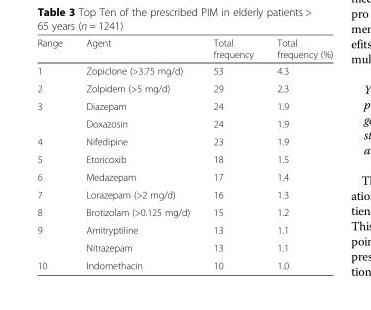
<table><thead><tr><td>Range</td><td>Agent</td><td>Total frequency</td><td>Total frequency (%)</td></tr></thead><tbody><tr><td>1</td><td>Zopiclone (&gt;3.75 mg/d)</td><td>53</td><td>4.3</td></tr><tr><td>2</td><td>Zolpidem (&gt;5 mg/d)</td><td>29</td><td>2.3</td></tr><tr><td rowspan="2">3</td><td>Diazepam</td><td>24</td><td>1.9</td></tr><tr><td>Doxazosin</td><td>24</td><td>1.9</td></tr><tr><td>4</td><td>Nifedipine</td><td>23</td><td>1.9</td></tr><tr><td>5</td><td>Etoricoxib</td><td>18</td><td>1.5</td></tr><tr><td>6</td><td>Medazepam</td><td>17</td><td>1.4</td></tr><tr><td>7</td><td>Lorazepam (&gt;2 mg/d)</td><td>16</td><td>1.3</td></tr><tr><td>8</td><td>Brotizolam (&gt;0.125 mg/d)</td><td>15</td><td>1.2</td></tr><tr><td rowspan="2">9</td><td>Amitryptiline</td><td>13</td><td>1.1</td></tr><tr><td>Nitrazepam</td><td>13</td><td>1.1</td></tr><tr><td>10</td><td>Indomethacin</td><td>10</td><td>1.0</td></tr></tbody></table>